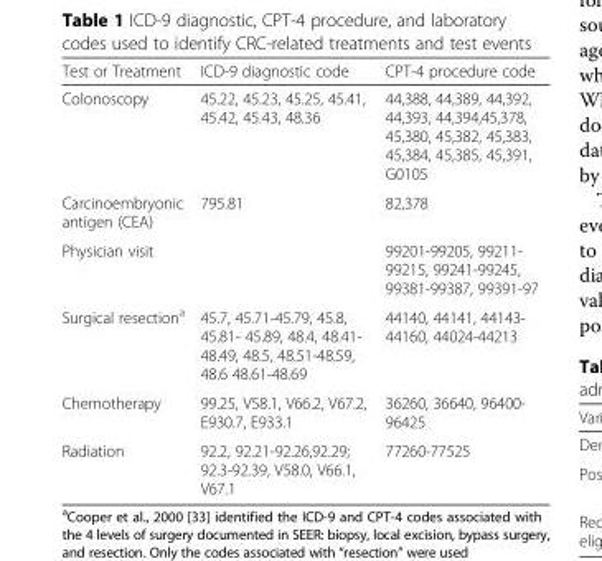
<table><thead><tr><td>Test or Treatment</td><td>ICD-9 diagnostic code</td><td>CPT-4 procedure code</td></tr></thead><tbody><tr><td>Colonoscopy</td><td>45.22, 45.23, 45.25, 45.41, 45.42, 45.43, 48.36</td><td>44,388, 44,389, 44,392, 44,393, 44,394,45,378, 45,380, 45,382, 45,383, 45,384, 45,385, 45,391, G0105</td></tr><tr><td>Carcinoembryonic antigen (CEA)</td><td>795.81</td><td>82,378</td></tr><tr><td>Physician visit</td><td></td><td>99201-99205, 99211- 99215, 99241-99245, 99381-99387, 99391-97</td></tr><tr><td>Surgical resection<sup>a</sup></td><td>45.7, 45.71-45.79, 45.8, 45.81- 45.89, 48.4, 48.41- 48.49, 48.5, 48.51-48.59, 48.6 48.61-48.69</td><td>44140, 44141, 44143- 44160, 44024-44213</td></tr><tr><td>Chemotherapy</td><td>99.25, V58.1, V66.2, V67.2, E930.7, E933.1</td><td>36260, 36640, 96400- 96425</td></tr><tr><td>Radiation</td><td>92.2, 92.21-92.26,92.29; 92.3-92.39, V58.0, V66.1, V67.1</td><td>77260-77525</td></tr></tbody></table>